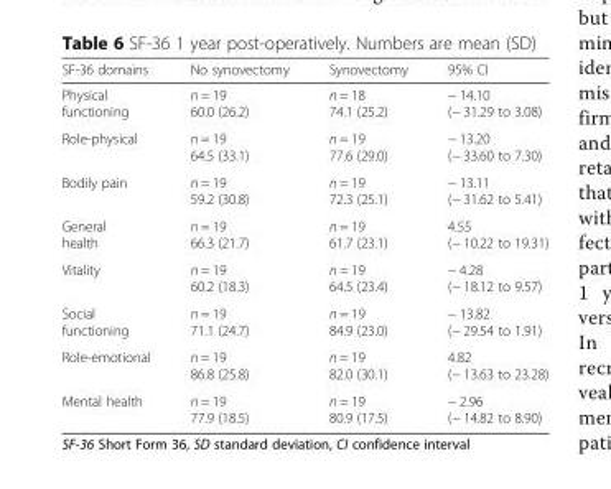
<table><thead><tr><td>SF-36 domains</td><td>No synovectomy</td><td>Synovectomy</td><td>95% CI</td></tr></thead><tbody><tr><td>Physical functioning</td><td>n = 19 60.0 (26.2)</td><td>n = 18 74.1 (25.2)</td><td>− 14.10 (− 31.29 to 3.08)</td></tr><tr><td>Role-physical</td><td>n = 19 64.5 (33.1)</td><td>n = 19 77.6 (29.0)</td><td>− 13.20 (− 33.60 to 7.30)</td></tr><tr><td>Bodily pain</td><td>n = 19 59.2 (30.8)</td><td>n = 19 72.3 (25.1)</td><td>− 13.11 (− 31.62 to 5.41)</td></tr><tr><td>General health</td><td>n = 19 66.3 (21.7)</td><td>n = 19 61.7 (23.1)</td><td>4.55 (− 10.22 to 19.31)</td></tr><tr><td>Vitality</td><td>n = 19 60.2 (18.3)</td><td>n = 19 64.5 (23.4)</td><td>− 4.28 (− 18.12 to 9.57)</td></tr><tr><td>Social functioning</td><td>n = 19 71.1 (24.7)</td><td>n = 19 84.9 (23.0)</td><td>− 13.82 (− 29.54 to 1.91)</td></tr><tr><td>Role-emotional</td><td>n = 19 86.8 (25.8)</td><td>n = 19 82.0 (30.1)</td><td>4.82 (− 13.63 to 23.28)</td></tr><tr><td>Mental health</td><td>n = 19 77.9 (18.5)</td><td>n = 19 80.9 (17.5)</td><td>− 2.96 (− 14.82 to 8.90)</td></tr></tbody></table>